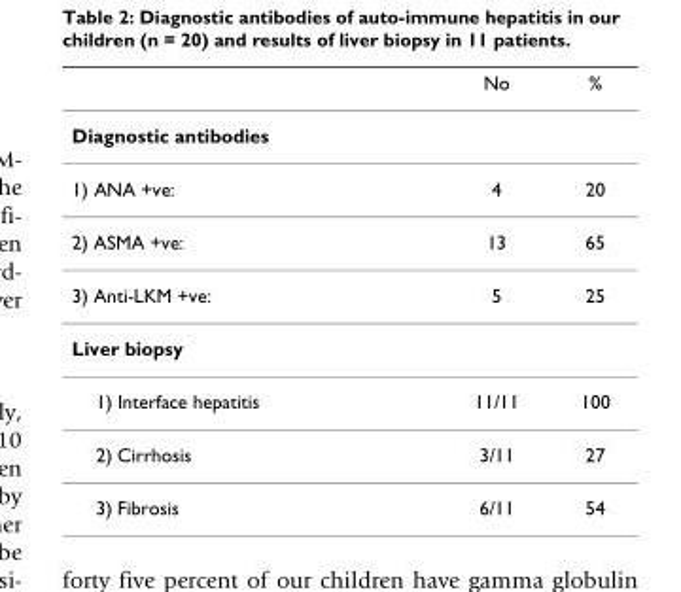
<table><thead><tr><td></td><td>No</td><td>%</td></tr></thead><tbody><tr><td colspan="3">Diagnostic antibodies</td></tr><tr><td>1) ANA +ve:</td><td>4</td><td>20</td></tr><tr><td>2) ASMA +ve:</td><td>13</td><td>65</td></tr><tr><td>3) Anti-LKM +ve:</td><td>5</td><td>25</td></tr><tr><td colspan="3">Liver biopsy</td></tr><tr><td>1) Interface hepatitis</td><td>11/11</td><td>100</td></tr><tr><td>2) Cirrhosis</td><td>3/11</td><td>27</td></tr><tr><td>3) Fibrosis</td><td>6/11</td><td>54</td></tr></tbody></table>